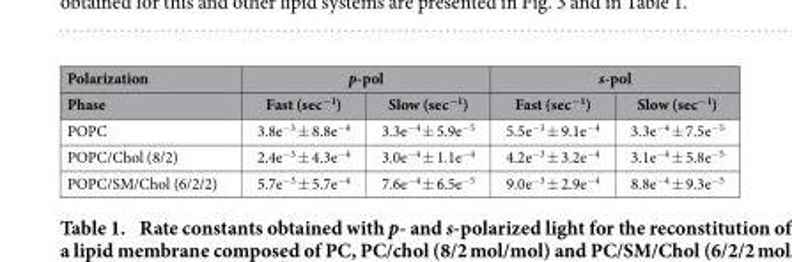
<table><thead><tr><td rowspan="2">Polarization Phase</td><td colspan="2">p-pol</td><td colspan="2">s-pol</td></tr><tr><td>Fast (sec<sup>−1</sup>)</td><td>Slow (sec<sup>−1</sup>)</td><td>Fast (sec<sup>−1</sup>)</td><td>Slow (sec<sup>−1</sup>)</td></tr></thead><tbody><tr><td>POPC</td><td>3.8e<sup>−3</sup> ± 8.8e<sup>−4</sup></td><td>3.3e<sup>−4</sup> ± 5.9e<sup>−5</sup></td><td>5.5e<sup>−3</sup> ± 9.1e<sup>−4</sup></td><td>3.3e<sup>−4</sup> ± 7.5e<sup>−5</sup></td></tr><tr><td>POPC/Chol (8/2)</td><td>2.4e<sup>−3</sup> ± 4.3e<sup>−4</sup></td><td>3.0e<sup>−4</sup> ± 1.1e<sup>−4</sup></td><td>4.2e<sup>−3</sup> ± 3.2e<sup>−4</sup></td><td>3.1e<sup>−4</sup> ± 5.8e<sup>−5</sup></td></tr><tr><td>POPC/SM/Chol (6/2/2)</td><td>5.7e<sup>−3</sup> ± 5.7e<sup>−4</sup></td><td>7.6e<sup>−4</sup> ± 6.5e<sup>−5</sup></td><td>9.0e<sup>−3</sup> ± 2.9e<sup>−4</sup></td><td>8.8e<sup>−4</sup> ± 9.3e<sup>−5</sup></td></tr></tbody></table>